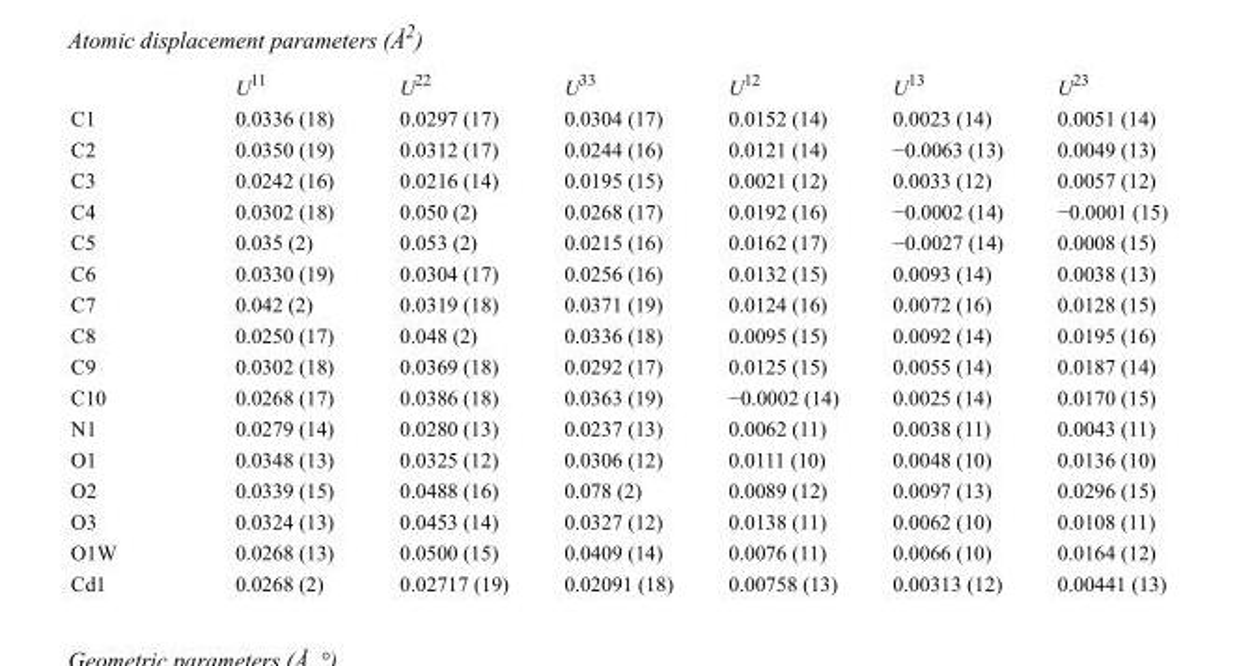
<table><thead><tr><td></td><td>U<sup>11</sup></td><td>U<sup>22</sup></td><td>U<sup>33</sup></td><td>U<sup>12</sup></td><td>U<sup>13</sup></td><td>U<sup>23</sup></td></tr></thead><tbody><tr><td>C1</td><td>0.0336 (18)</td><td>0.0297 (17)</td><td>0.0304 (17)</td><td>0.0152 (14)</td><td>0.0023 (14)</td><td>0.0051 (14)</td></tr><tr><td>C2</td><td>0.0350 (19)</td><td>0.0312 (17)</td><td>0.0244 (16)</td><td>0.0121 (14)</td><td>−0.0063 (13)</td><td>0.0049 (13)</td></tr><tr><td>C3</td><td>0.0242 (16)</td><td>0.0216 (14)</td><td>0.0195 (15)</td><td>0.0021 (12)</td><td>0.0033 (12)</td><td>0.0057 (12)</td></tr><tr><td>C4</td><td>0.0302 (18)</td><td>0.050 (2)</td><td>0.0268 (17)</td><td>0.0192 (16)</td><td>−0.0002 (14)</td><td>−0.0001 (15)</td></tr><tr><td>C5</td><td>0.035 (2)</td><td>0.053 (2)</td><td>0.0215 (16)</td><td>0.0162 (17)</td><td>−0.0027 (14)</td><td>0.0008 (15)</td></tr><tr><td>C6</td><td>0.0330 (19)</td><td>0.0304 (17)</td><td>0.0256 (16)</td><td>0.0132 (15)</td><td>0.0093 (14)</td><td>0.0038 (13)</td></tr><tr><td>C7</td><td>0.042 (2)</td><td>0.0319 (18)</td><td>0.0371 (19)</td><td>0.0124 (16)</td><td>0.0072 (16)</td><td>0.0128 (15)</td></tr><tr><td>C8</td><td>0.0250 (17)</td><td>0.048 (2)</td><td>0.0336 (18)</td><td>0.0095 (15)</td><td>0.0092 (14)</td><td>0.0195 (16)</td></tr><tr><td>C9</td><td>0.0302 (18)</td><td>0.0369 (18)</td><td>0.0292 (17)</td><td>0.0125 (15)</td><td>0.0055 (14)</td><td>0.0187 (14)</td></tr><tr><td>C10</td><td>0.0268 (17)</td><td>0.0386 (18)</td><td>0.0363 (19)</td><td>−0.0002 (14)</td><td>0.0025 (14)</td><td>0.0170 (15)</td></tr><tr><td>N1</td><td>0.0279 (14)</td><td>0.0280 (13)</td><td>0.0237 (13)</td><td>0.0062 (11)</td><td>0.0038 (11)</td><td>0.0043 (11)</td></tr><tr><td>O1</td><td>0.0348 (13)</td><td>0.0325 (12)</td><td>0.0306 (12)</td><td>0.0111 (10)</td><td>0.0048 (10)</td><td>0.0136 (10)</td></tr><tr><td>O2</td><td>0.0339 (15)</td><td>0.0488 (16)</td><td>0.078 (2)</td><td>0.0089 (12)</td><td>0.0097 (13)</td><td>0.0296 (15)</td></tr><tr><td>O3</td><td>0.0324 (13)</td><td>0.0453 (14)</td><td>0.0327 (12)</td><td>0.0138 (11)</td><td>0.0062 (10)</td><td>0.0108 (11)</td></tr><tr><td>O1W</td><td>0.0268 (13)</td><td>0.0500 (15)</td><td>0.0409 (14)</td><td>0.0076 (11)</td><td>0.0066 (10)</td><td>0.0164 (12)</td></tr><tr><td>Cd1</td><td>0.0268 (2)</td><td>0.02717 (19)</td><td>0.02091 (18)</td><td>0.00758 (13)</td><td>0.00313 (12)</td><td>0.00441 (13)</td></tr></tbody></table>